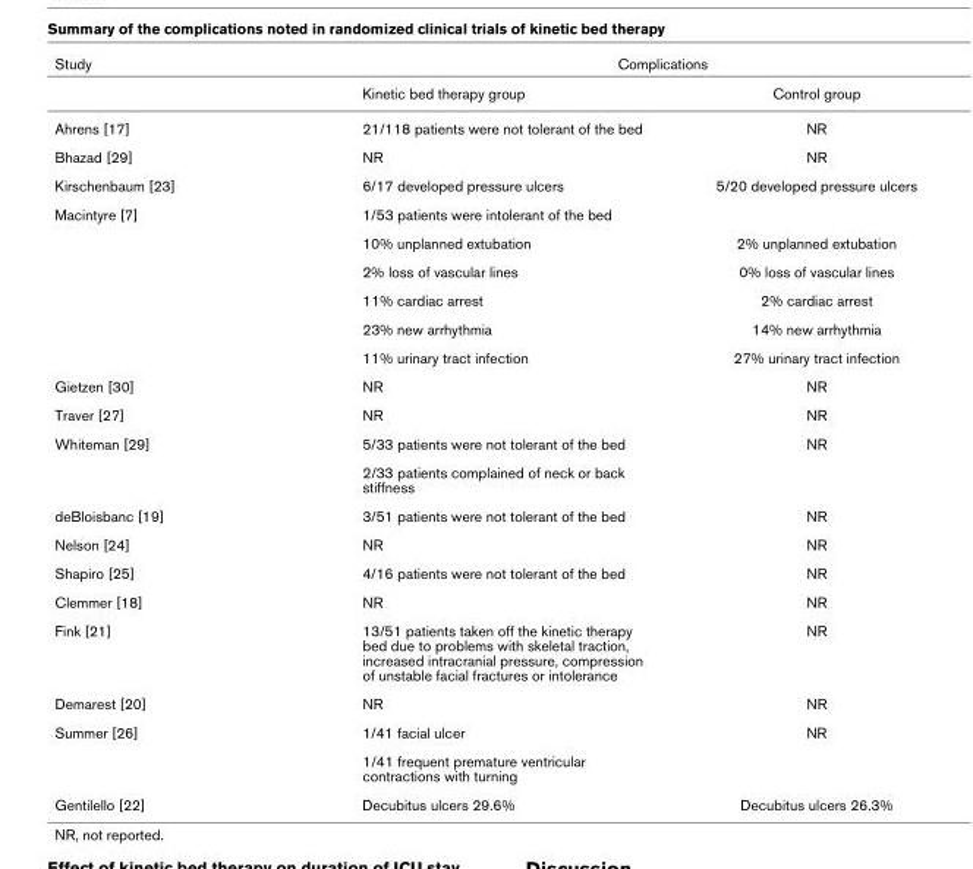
<table><thead><tr><td rowspan="2">Study</td><td colspan="2">Complications</td></tr><tr><td>Kinetic bed therapy group</td><td>Control group</td></tr></thead><tbody><tr><td>Ahrens [17]</td><td>21/118 patients were not tolerant of the bed</td><td>NR</td></tr><tr><td>Bhazad [29]</td><td>NR</td><td>NR</td></tr><tr><td>Kirschenbaum [23]</td><td>6/17 developed pressure ulcers</td><td>5/20 developed pressure ulcers</td></tr><tr><td rowspan="6">Macintyre [7]</td><td>1/53 patients were intolerant of the bed</td><td></td></tr><tr><td>10% unplanned extubation</td><td>2% unplanned extubation</td></tr><tr><td>2% loss of vascular lines</td><td>0% loss of vascular lines</td></tr><tr><td>11% cardiac arrest</td><td>2% cardiac arrest</td></tr><tr><td>23% new arrhythmia</td><td>14% new arrhythmia</td></tr><tr><td>11% urinary tract infection</td><td>27% urinary tract infection</td></tr><tr><td>Gietzen [30]</td><td>NR</td><td>NR</td></tr><tr><td>Traver [27]</td><td>NR</td><td>NR</td></tr><tr><td rowspan="2">Whiteman [29]</td><td>5/33 patients were not tolerant of the bed</td><td>NR</td></tr><tr><td>2/33 patients complained of neck or back stiffness</td><td></td></tr><tr><td>deBloisbanc [19]</td><td>3/51 patients were not tolerant of the bed</td><td>NR</td></tr><tr><td>Nelson [24]</td><td>NR</td><td>NR</td></tr><tr><td>Shapiro [25]</td><td>4/16 patients were not tolerant of the bed</td><td>NR</td></tr><tr><td>Clemmer [18]</td><td>NR</td><td>NR</td></tr><tr><td>Fink [21]</td><td>13/51 patients taken off the kinetic therapy bed due to problems with skeletal traction, increased intracranial pressure, compression of unstable facial fractures or intolerance</td><td>NR</td></tr><tr><td>Demarest [20]</td><td>NR</td><td>NR</td></tr><tr><td rowspan="2">Summer [26]</td><td>1/41 facial ulcer</td><td>NR</td></tr><tr><td>1/41 frequent premature ventricular contractions with turning</td><td></td></tr><tr><td>Gentilello [22]</td><td>Decubitus ulcers 29.6%</td><td>Decubitus ulcers 26.3%</td></tr></tbody></table>